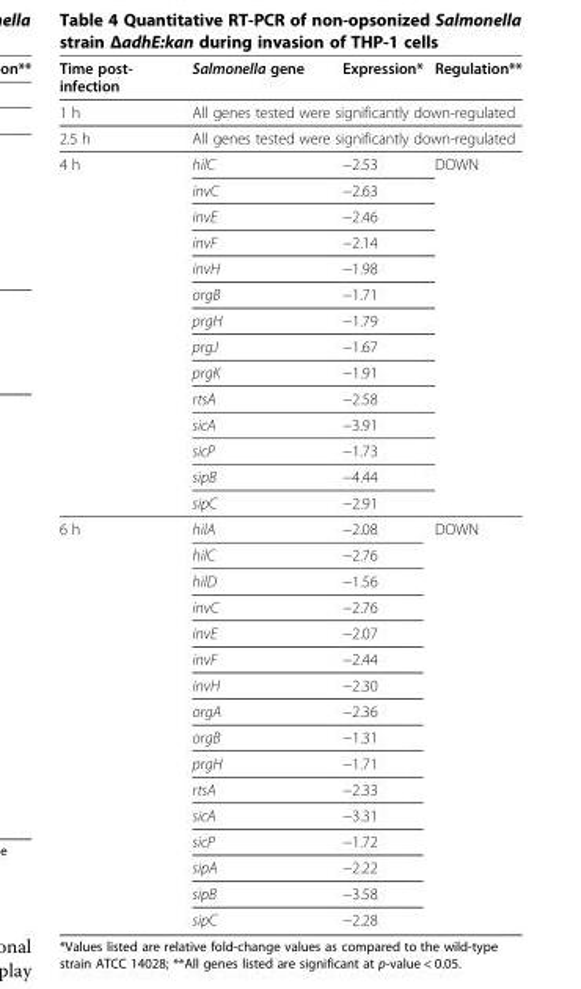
<table><thead><tr><td>Time post- infection</td><td>Salmonella gene</td><td>Expression*</td><td>Regulation**</td></tr></thead><tbody><tr><td>1 h</td><td colspan="3">All genes tested were significantly down-regulated</td></tr><tr><td>2.5 h</td><td colspan="3">All genes tested were significantly down-regulated</td></tr><tr><td rowspan="14">4 h</td><td>hilC</td><td>−2.53</td><td rowspan="14">DOWN</td></tr><tr><td>invC</td><td>−2.63</td></tr><tr><td>invE</td><td>−2.46</td></tr><tr><td>invF</td><td>−2.14</td></tr><tr><td>invH</td><td>−1.98</td></tr><tr><td>orgB</td><td>−1.71</td></tr><tr><td>prgH</td><td>−1.79</td></tr><tr><td>prgJ</td><td>−1.67</td></tr><tr><td>prgK</td><td>−1.91</td></tr><tr><td>rtsA</td><td>−2.58</td></tr><tr><td>sicA</td><td>−3.91</td></tr><tr><td>sicP</td><td>−1.73</td></tr><tr><td>sipB</td><td>−4.44</td></tr><tr><td>sipC</td><td>−2.91</td></tr><tr><td rowspan="16">6 h</td><td>hilA</td><td>−2.08</td><td rowspan="16">DOWN</td></tr><tr><td>hilC</td><td>−2.76</td></tr><tr><td>hilD</td><td>−1.56</td></tr><tr><td>invC</td><td>−2.76</td></tr><tr><td>invE</td><td>−2.07</td></tr><tr><td>invF</td><td>−2.44</td></tr><tr><td>invH</td><td>−2.30</td></tr><tr><td>orgA</td><td>−2.36</td></tr><tr><td>orgB</td><td>−1.31</td></tr><tr><td>prgH</td><td>−1.71</td></tr><tr><td>rtsA</td><td>−2.33</td></tr><tr><td>sicA</td><td>−3.31</td></tr><tr><td>sicP</td><td>−1.72</td></tr><tr><td>sipA</td><td>−2.22</td></tr><tr><td>sipB</td><td>−3.58</td></tr><tr><td>sipC</td><td>−2.28</td></tr></tbody></table>